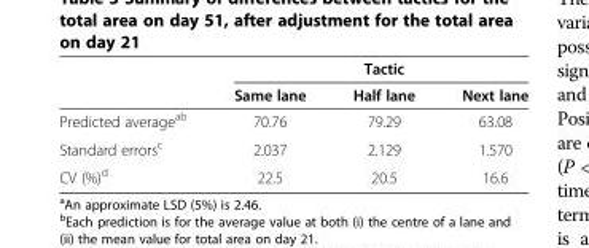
<table><thead><tr><td rowspan="2"></td><td rowspan="2">Same lane</td><td rowspan="2">Tactic Half lane</td><td rowspan="2">Next lane</td></tr><tr></tr></thead><tbody><tr><td>Predicted average<sup>ab</sup></td><td>70.76</td><td>79.29</td><td>63.08</td></tr><tr><td>Standard errors<sup>c</sup></td><td>2.037</td><td>2.129</td><td>1.570</td></tr><tr><td>CV (%)<sup>d</sup></td><td>22.5</td><td>20.5</td><td>16.6</td></tr></tbody></table>